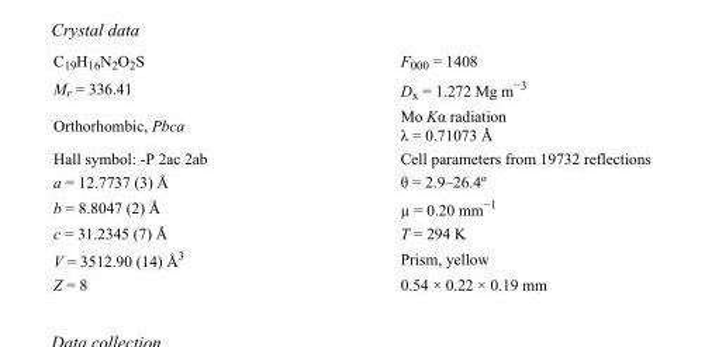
<table><tbody><tr><td>C<sub>19</sub>H<sub>16</sub>N<sub>2</sub>O<sub>2</sub>S</td><td>F000 = 1408</td></tr><tr><td>M<sub>r</sub> = 336.41</td><td>D<sub>x</sub> = 1.272 Mg m<sup>−3</sup></td></tr><tr><td>Orthorhombic, Pbca</td><td>Mo Kα radiation λ = 0.71073 Å</td></tr><tr><td>Hall symbol: -P 2ac 2ab</td><td>Cell parameters from 19732 reflections</td></tr><tr><td>a = 12.7737 (3) Å</td><td>θ = 2.9–26.4º</td></tr><tr><td>b = 8.8047 (2) Å</td><td>µ = 0.20 mm<sup>−1</sup></td></tr><tr><td>c = 31.2345 (7) Å</td><td>T = 294 K</td></tr><tr><td>V = 3512.90 (14) Å<sup>3</sup></td><td>Prism, yellow</td></tr><tr><td>Z = 8</td><td>0.54 × 0.22 × 0.19 mm</td></tr></tbody></table>